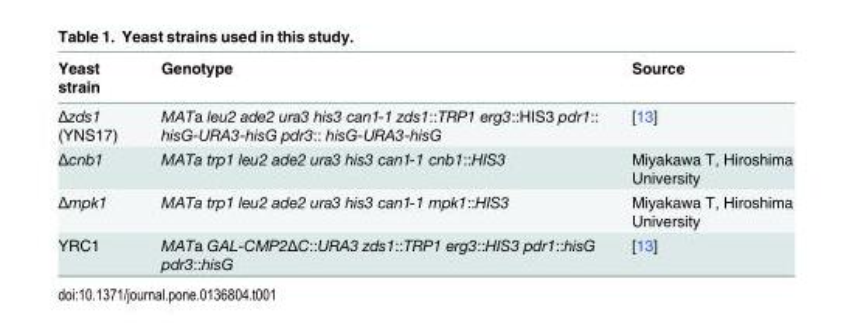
<table><thead><tr><td>Yeast strain</td><td>Genotype</td><td>Source</td></tr></thead><tbody><tr><td>Δzds1 (YNS17)</td><td>MATa leu2 ade2 ura3 his3 can1-1 zds1::TRP1 erg3::HIS3 pdr1:: hisG-URA3-hisG pdr3:: hisG-URA3-hisG</td><td>[13]</td></tr><tr><td>Δcnb1</td><td>MATa trp1 leu2 ade2 ura3 his3 can1-1 cnb1::HIS3</td><td>Miyakawa T, Hiroshima University</td></tr><tr><td>Δmpk1</td><td>MATa trp1 leu2 ade2 ura3 his3 can1-1 mpk1::HIS3</td><td>Miyakawa T, Hiroshima University</td></tr><tr><td>YRC1</td><td>MATa GAL-CMP2ΔC::URA3 zds1::TRP1 erg3::HIS3 pdr1::hisG pdr3::hisG</td><td>[13]</td></tr></tbody></table>